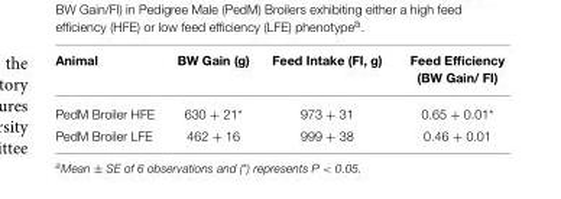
<table><thead><tr><td>Animal</td><td>BW Gain (g)</td><td>Feed Intake (FI, g)</td><td>Feed Efficiency (BW Gain/ FI)</td></tr></thead><tbody><tr><td>PedM Broiler HFE</td><td>630 + 21*</td><td>973 + 31</td><td>0.65 + 0.01*</td></tr><tr><td>PedM Broiler LFE</td><td>462 + 16</td><td>999 + 38</td><td>0.46 + 0.01</td></tr></tbody></table>